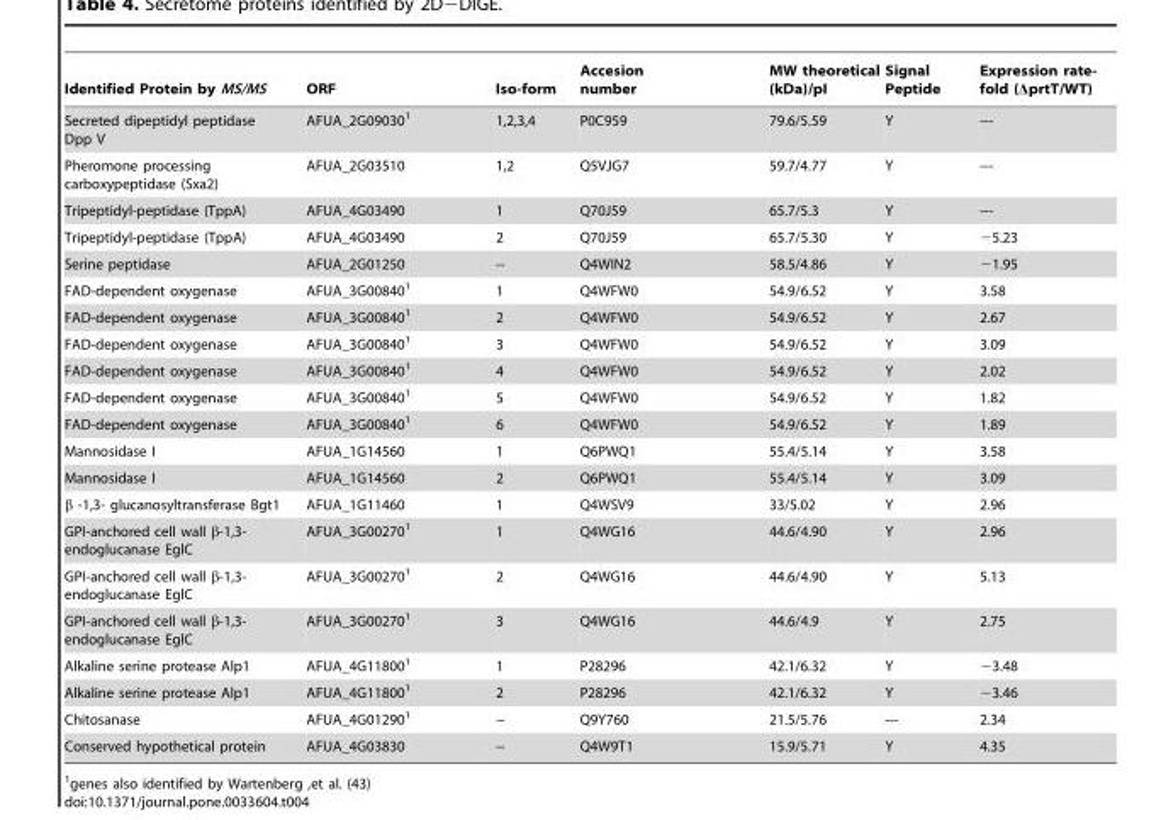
<table><thead><tr><td>Identified Protein by MS/MS</td><td>ORF</td><td>Iso-form</td><td>Accesion number</td><td>MW theoretical (kDa)/pI</td><td>Signal Peptide</td><td>Expression rate- fold (ΔprtT/WT)</td></tr></thead><tbody><tr><td>Secreted dipeptidyl peptidase Dpp V</td><td>AFUA_2G09030<sup>1</sup></td><td>1,2,3,4</td><td>P0C959</td><td>79.6/5.59</td><td>Y</td><td>---</td></tr><tr><td>Pheromone processing carboxypeptidase (Sxa2)</td><td>AFUA_2G03510</td><td>1,2</td><td>Q5VJG7</td><td>59.7/4.77</td><td>Y</td><td>---</td></tr><tr><td>Tripeptidyl-peptidase (TppA)</td><td>AFUA_4G03490</td><td>1</td><td>Q70J59</td><td>65.7/5.3</td><td>Y</td><td>---</td></tr><tr><td>Tripeptidyl-peptidase (TppA)</td><td>AFUA_4G03490</td><td>2</td><td>Q70J59</td><td>65.7/5.30</td><td>Y</td><td>−5.23</td></tr><tr><td>Serine peptidase</td><td>AFUA_2G01250</td><td>--</td><td>Q4WIN2</td><td>58.5/4.86</td><td>Y</td><td>−1.95</td></tr><tr><td>FAD-dependent oxygenase</td><td>AFUA_3G00840<sup>1</sup></td><td>1</td><td>Q4WFW0</td><td>54.9/6.52</td><td>Y</td><td>3.58</td></tr><tr><td>FAD-dependent oxygenase</td><td>AFUA_3G00840<sup>1</sup></td><td>2</td><td>Q4WFW0</td><td>54.9/6.52</td><td>Y</td><td>2.67</td></tr><tr><td>FAD-dependent oxygenase</td><td>AFUA_3G00840<sup>1</sup></td><td>3</td><td>Q4WFW0</td><td>54.9/6.52</td><td>Y</td><td>3.09</td></tr><tr><td>FAD-dependent oxygenase</td><td>AFUA_3G00840<sup>1</sup></td><td>4</td><td>Q4WFW0</td><td>54.9/6.52</td><td>Y</td><td>2.02</td></tr><tr><td>FAD-dependent oxygenase</td><td>AFUA_3G00840<sup>1</sup></td><td>5</td><td>Q4WFW0</td><td>54.9/6.52</td><td>Y</td><td>1.82</td></tr><tr><td>FAD-dependent oxygenase</td><td>AFUA_3G00840<sup>1</sup></td><td>6</td><td>Q4WFW0</td><td>54.9/6.52</td><td>Y</td><td>1.89</td></tr><tr><td>Mannosidase I</td><td>AFUA_1G14560</td><td>1</td><td>Q6PWQ1</td><td>55.4/5.14</td><td>Y</td><td>3.58</td></tr><tr><td>Mannosidase I</td><td>AFUA_1G14560</td><td>2</td><td>Q6PWQ1</td><td>55.4/5.14</td><td>Y</td><td>3.09</td></tr><tr><td>β -1,3- glucanosyltransferase Bgt1</td><td>AFUA_1G11460</td><td>1</td><td>Q4WSV9</td><td>33/5.02</td><td>Y</td><td>2.96</td></tr><tr><td>GPI-anchored cell wall β-1,3- endoglucanase EglC</td><td>AFUA_3G00270<sup>1</sup></td><td>1</td><td>Q4WG16</td><td>44.6/4.90</td><td>Y</td><td>2.96</td></tr><tr><td>GPI-anchored cell wall β-1,3- endoglucanase EglC</td><td>AFUA_3G00270<sup>1</sup></td><td>2</td><td>Q4WG16</td><td>44.6/4.90</td><td>Y</td><td>5.13</td></tr><tr><td>GPI-anchored cell wall β-1,3- endoglucanase EglC</td><td>AFUA_3G00270<sup>1</sup></td><td>3</td><td>Q4WG16</td><td>44.6/4.9</td><td>Y</td><td>2.75</td></tr><tr><td>Alkaline serine protease Alp1</td><td>AFUA_4G11800<sup>1</sup></td><td>1</td><td>P28296</td><td>42.1/6.32</td><td>Y</td><td>−3.48</td></tr><tr><td>Alkaline serine protease Alp1</td><td>AFUA_4G11800<sup>1</sup></td><td>2</td><td>P28296</td><td>42.1/6.32</td><td>Y</td><td>−3.46</td></tr><tr><td>Chitosanase</td><td>AFUA_4G01290<sup>1</sup></td><td>--</td><td>Q9Y760</td><td>21.5/5.76</td><td>---</td><td>2.34</td></tr><tr><td>Conserved hypothetical protein</td><td>AFUA_4G03830</td><td>--</td><td>Q4W9T1</td><td>15.9/5.71</td><td>Y</td><td>4.35</td></tr></tbody></table>